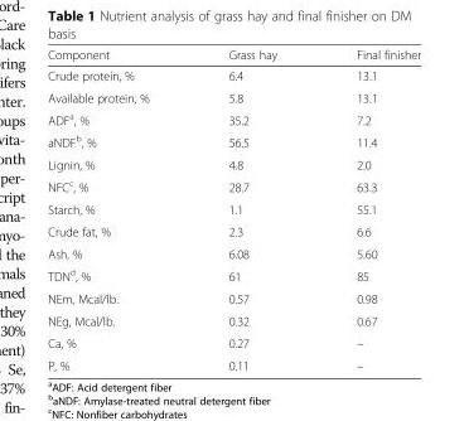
<table><thead><tr><td>Component</td><td>Grass hay</td><td>Final finisher</td></tr></thead><tbody><tr><td>Crude protein, %</td><td>6.4</td><td>13.1</td></tr><tr><td>Available protein, %</td><td>5.8</td><td>13.1</td></tr><tr><td>ADF<sup>a</sup>, %</td><td>35.2</td><td>7.2</td></tr><tr><td>aNDF<sup>b</sup>, %</td><td>56.5</td><td>11.4</td></tr><tr><td>Lignin, %</td><td>4.8</td><td>2.0</td></tr><tr><td>NFC<sup>c</sup>, %</td><td>28.7</td><td>63.3</td></tr><tr><td>Starch, %</td><td>1.1</td><td>55.1</td></tr><tr><td>Crude fat, %</td><td>2.3</td><td>6.6</td></tr><tr><td>Ash, %</td><td>6.08</td><td>5.60</td></tr><tr><td>TDN<sup>d</sup>, %</td><td>61</td><td>85</td></tr><tr><td>NEm, Mcal/lb.</td><td>0.57</td><td>0.98</td></tr><tr><td>NEg, Mcal/lb.</td><td>0.32</td><td>0.67</td></tr><tr><td>Ca, %</td><td>0.27</td><td>–</td></tr><tr><td>P, %</td><td>0.11</td><td>–</td></tr></tbody></table>